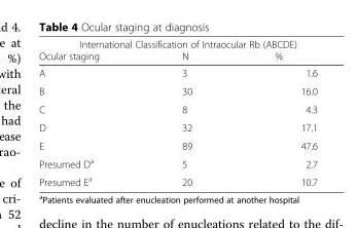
<table><thead><tr><td colspan="3">International Classification of Intraocular Rb (ABCDE)</td></tr><tr><td>Ocular staging</td><td>N</td><td>%</td></tr></thead><tbody><tr><td>A</td><td>3</td><td>1.6</td></tr><tr><td>B</td><td>30</td><td>16.0</td></tr><tr><td>C</td><td>8</td><td>4.3</td></tr><tr><td>D</td><td>32</td><td>17.1</td></tr><tr><td>E</td><td>89</td><td>47.6</td></tr><tr><td>Presumed D<sup>a</sup></td><td>5</td><td>2.7</td></tr><tr><td>Presumed E<sup>a</sup></td><td>20</td><td>10.7</td></tr></tbody></table>